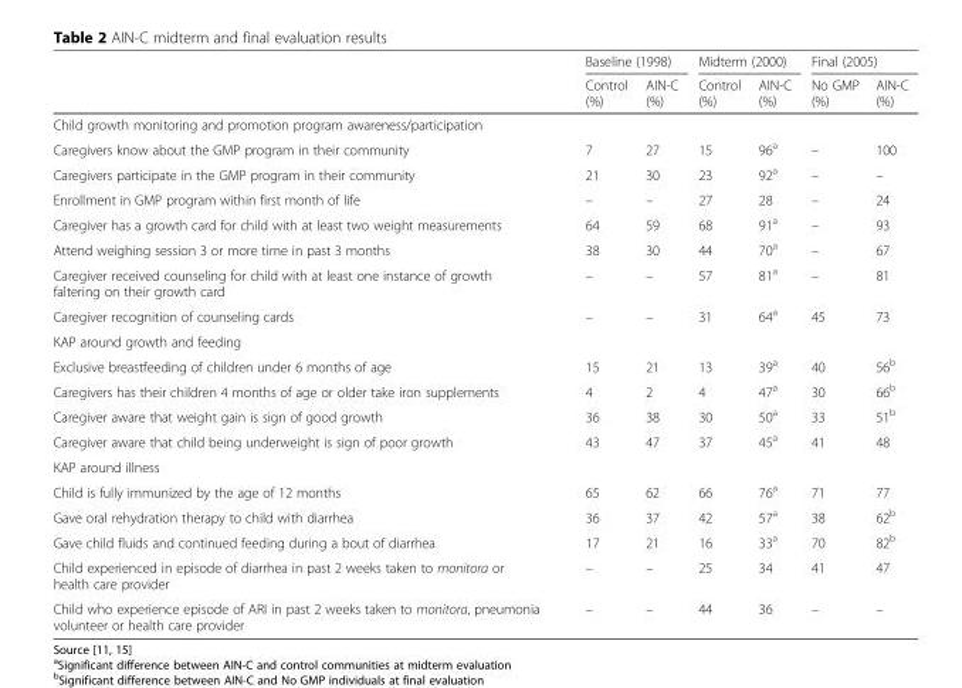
<table><thead><tr><td rowspan="2"></td><td colspan="2">Baseline (1998)</td><td colspan="2">Midterm (2000)</td><td colspan="2">Final (2005)</td></tr><tr><td>Control (%)</td><td>AIN-C (%)</td><td>Control (%)</td><td>AIN-C (%)</td><td>No GMP (%)</td><td>AIN-C (%)</td></tr></thead><tbody><tr><td colspan="7">Child growth monitoring and promotion program awareness/participation</td></tr><tr><td>Caregivers know about the GMP program in their community</td><td>7</td><td>27</td><td>15</td><td>96<sup>a</sup></td><td>–</td><td>100</td></tr><tr><td>Caregivers participate in the GMP program in their community</td><td>21</td><td>30</td><td>23</td><td>92<sup>a</sup></td><td>–</td><td>–</td></tr><tr><td>Enrollment in GMP program within first month of life</td><td>–</td><td>–</td><td>27</td><td>28</td><td>–</td><td>24</td></tr><tr><td>Caregiver has a growth card for child with at least two weight measurements</td><td>64</td><td>59</td><td>68</td><td>91<sup>a</sup></td><td>–</td><td>93</td></tr><tr><td>Attend weighing session 3 or more time in past 3 months</td><td>38</td><td>30</td><td>44</td><td>70<sup>a</sup></td><td>–</td><td>67</td></tr><tr><td>Caregiver received counseling for child with at least one instance of growth faltering on their growth card</td><td>–</td><td>–</td><td>57</td><td>81<sup>a</sup></td><td>–</td><td>81</td></tr><tr><td>Caregiver recognition of counseling cards</td><td>–</td><td>–</td><td>31</td><td>64<sup>a</sup></td><td>45</td><td>73</td></tr><tr><td colspan="7">KAP around growth and feeding</td></tr><tr><td>Exclusive breastfeeding of children under 6 months of age</td><td>15</td><td>21</td><td>13</td><td>39<sup>a</sup></td><td>40</td><td>56<sup>b</sup></td></tr><tr><td>Caregivers has their children 4 months of age or older take iron supplements</td><td>4</td><td>2</td><td>4</td><td>47<sup>a</sup></td><td>30</td><td>66<sup>b</sup></td></tr><tr><td>Caregiver aware that weight gain is sign of good growth</td><td>36</td><td>38</td><td>30</td><td>50<sup>a</sup></td><td>33</td><td>51<sup>b</sup></td></tr><tr><td>Caregiver aware that child being underweight is sign of poor growth</td><td>43</td><td>47</td><td>37</td><td>45<sup>a</sup></td><td>41</td><td>48</td></tr><tr><td colspan="7">KAP around illness</td></tr><tr><td>Child is fully immunized by the age of 12 months</td><td>65</td><td>62</td><td>66</td><td>76<sup>a</sup></td><td>71</td><td>77</td></tr><tr><td>Gave oral rehydration therapy to child with diarrhea</td><td>36</td><td>37</td><td>42</td><td>57<sup>a</sup></td><td>38</td><td>62<sup>b</sup></td></tr><tr><td>Gave child fluids and continued feeding during a bout of diarrhea</td><td>17</td><td>21</td><td>16</td><td>33<sup>a</sup></td><td>70</td><td>82<sup>b</sup></td></tr><tr><td>Child experienced in episode of diarrhea in past 2 weeks taken to monitora or health care provider</td><td>–</td><td>–</td><td>25</td><td>34</td><td>41</td><td>47</td></tr><tr><td>Child who experience episode of ARI in past 2 weeks taken to monitora, pneumonia volunteer or health care provider</td><td>–</td><td>–</td><td>44</td><td>36</td><td>–</td><td>–</td></tr></tbody></table>